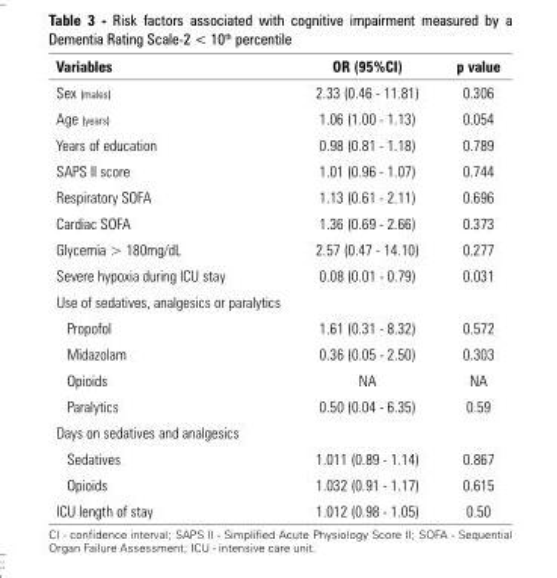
<table><thead><tr><td>Variables</td><td>OR (95%CI)</td><td>p value</td></tr></thead><tbody><tr><td>Sex (males)</td><td>2.33 (0.46 - 11.81)</td><td>0.306</td></tr><tr><td>Age (years)</td><td>1.06 (1.00 - 1.13)</td><td>0.054</td></tr><tr><td>Years of education</td><td>0.98 (0.81 - 1.18)</td><td>0.789</td></tr><tr><td>SAPS II score</td><td>1.01 (0.96 - 1.07)</td><td>0.744</td></tr><tr><td>Respiratory SOFA</td><td>1.13 (0.61 - 2.11)</td><td>0.696</td></tr><tr><td>Cardiac SOFA</td><td>1.36 (0.69 - 2.66)</td><td>0.373</td></tr><tr><td>Glycemia &gt; 180mg/dL</td><td>2.57 (0.47 - 14.10)</td><td>0.277</td></tr><tr><td>Severe hypoxia during ICU stay</td><td>0.08 (0.01 - 0.79)</td><td>0.031</td></tr><tr><td colspan="3">Use of sedatives, analgesics or paralytics</td></tr><tr><td>Propofol</td><td>1.61 (0.31 - 8.32)</td><td>0.572</td></tr><tr><td>Midazolam</td><td>0.36 (0.05 - 2.50)</td><td>0.303</td></tr><tr><td>Opioids</td><td>NA</td><td>NA</td></tr><tr><td>Paralytics</td><td>0.50 (0.04 - 6.35)</td><td>0.59</td></tr><tr><td colspan="3">Days on sedatives and analgesics</td></tr><tr><td>Sedatives</td><td>1.011 (0.89 - 1.14)</td><td>0.867</td></tr><tr><td>Opioids</td><td>1.032 (0.91 - 1.17)</td><td>0.615</td></tr><tr><td>ICU length of stay</td><td>1.012 (0.98 - 1.05)</td><td>0.50</td></tr></tbody></table>